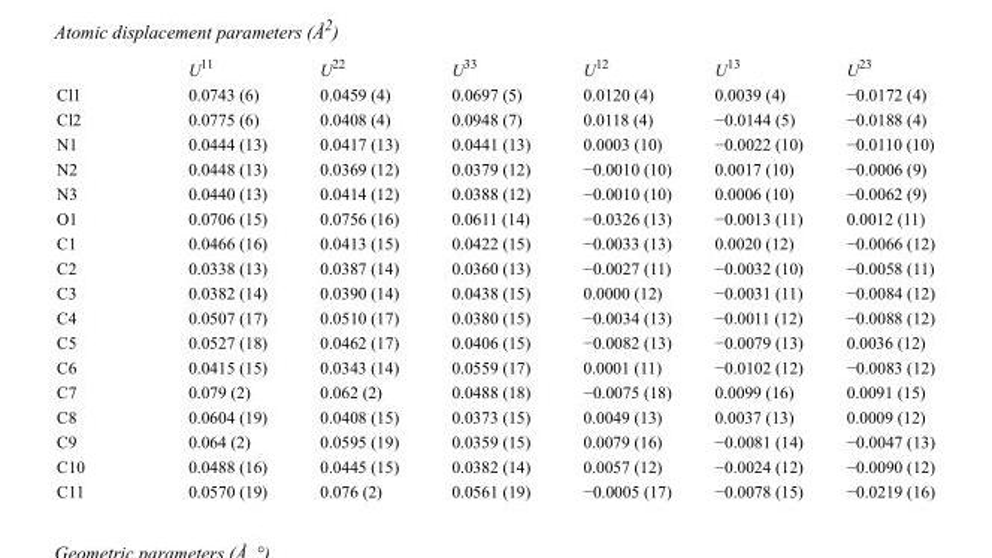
<table><thead><tr><td></td><td>U<sup>11</sup></td><td>U<sup>22</sup></td><td>U<sup>33</sup></td><td>U<sup>12</sup></td><td>U<sup>13</sup></td><td>U<sup>23</sup></td></tr></thead><tbody><tr><td>Cl1</td><td>0.0743 (6)</td><td>0.0459 (4)</td><td>0.0697 (5)</td><td>0.0120 (4)</td><td>0.0039 (4)</td><td>−0.0172 (4)</td></tr><tr><td>Cl2</td><td>0.0775 (6)</td><td>0.0408 (4)</td><td>0.0948 (7)</td><td>0.0118 (4)</td><td>−0.0144 (5)</td><td>−0.0188 (4)</td></tr><tr><td>N1</td><td>0.0444 (13)</td><td>0.0417 (13)</td><td>0.0441 (13)</td><td>0.0003 (10)</td><td>−0.0022 (10)</td><td>−0.0110 (10)</td></tr><tr><td>N2</td><td>0.0448 (13)</td><td>0.0369 (12)</td><td>0.0379 (12)</td><td>−0.0010 (10)</td><td>0.0017 (10)</td><td>−0.0006 (9)</td></tr><tr><td>N3</td><td>0.0440 (13)</td><td>0.0414 (12)</td><td>0.0388 (12)</td><td>−0.0010 (10)</td><td>0.0006 (10)</td><td>−0.0062 (9)</td></tr><tr><td>O1</td><td>0.0706 (15)</td><td>0.0756 (16)</td><td>0.0611 (14)</td><td>−0.0326 (13)</td><td>−0.0013 (11)</td><td>0.0012 (11)</td></tr><tr><td>C1</td><td>0.0466 (16)</td><td>0.0413 (15)</td><td>0.0422 (15)</td><td>−0.0033 (13)</td><td>0.0020 (12)</td><td>−0.0066 (12)</td></tr><tr><td>C2</td><td>0.0338 (13)</td><td>0.0387 (14)</td><td>0.0360 (13)</td><td>−0.0027 (11)</td><td>−0.0032 (10)</td><td>−0.0058 (11)</td></tr><tr><td>C3</td><td>0.0382 (14)</td><td>0.0390 (14)</td><td>0.0438 (15)</td><td>0.0000 (12)</td><td>−0.0031 (11)</td><td>−0.0084 (12)</td></tr><tr><td>C4</td><td>0.0507 (17)</td><td>0.0510 (17)</td><td>0.0380 (15)</td><td>−0.0034 (13)</td><td>−0.0011 (12)</td><td>−0.0088 (12)</td></tr><tr><td>C5</td><td>0.0527 (18)</td><td>0.0462 (17)</td><td>0.0406 (15)</td><td>−0.0082 (13)</td><td>−0.0079 (13)</td><td>0.0036 (12)</td></tr><tr><td>C6</td><td>0.0415 (15)</td><td>0.0343 (14)</td><td>0.0559 (17)</td><td>0.0001 (11)</td><td>−0.0102 (12)</td><td>−0.0083 (12)</td></tr><tr><td>C7</td><td>0.079 (2)</td><td>0.062 (2)</td><td>0.0488 (18)</td><td>−0.0075 (18)</td><td>0.0099 (16)</td><td>0.0091 (15)</td></tr><tr><td>C8</td><td>0.0604 (19)</td><td>0.0408 (15)</td><td>0.0373 (15)</td><td>0.0049 (13)</td><td>0.0037 (13)</td><td>0.0009 (12)</td></tr><tr><td>C9</td><td>0.064 (2)</td><td>0.0595 (19)</td><td>0.0359 (15)</td><td>0.0079 (16)</td><td>−0.0081 (14)</td><td>−0.0047 (13)</td></tr><tr><td>C10</td><td>0.0488 (16)</td><td>0.0445 (15)</td><td>0.0382 (14)</td><td>0.0057 (12)</td><td>−0.0024 (12)</td><td>−0.0090 (12)</td></tr><tr><td>C11</td><td>0.0570 (19)</td><td>0.076 (2)</td><td>0.0561 (19)</td><td>−0.0005 (17)</td><td>−0.0078 (15)</td><td>−0.0219 (16)</td></tr></tbody></table>